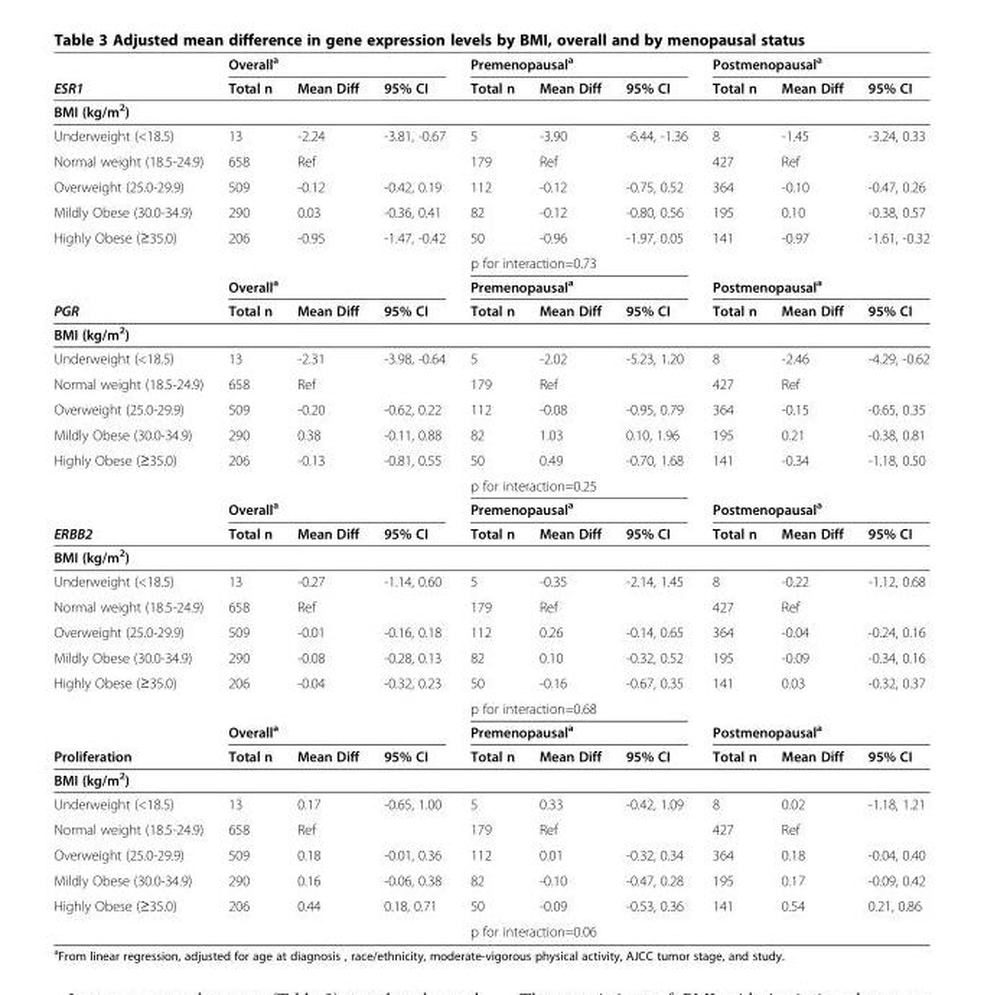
<table><thead><tr><td rowspan="2">ESR1</td><td colspan="3">Overall<sup>a</sup></td><td colspan="3">Premenopausal<sup>a</sup></td><td colspan="3">Postmenopausala</td></tr><tr><td>Total n</td><td>Mean Diff</td><td>95% CI</td><td>Total n</td><td>Mean Diff</td><td>95% CI</td><td>Total n</td><td>Mean Diff</td><td>95% CI</td></tr></thead><tbody><tr><td colspan="10">BMI (kg/m<sup>2</sup>)</td></tr><tr><td>Underweight (&lt;18.5)</td><td>13</td><td>-2.24</td><td>-3.81, -0.67</td><td>5</td><td>-3.90</td><td>-6.44, -1.36</td><td>8</td><td>-1.45</td><td>-3.24, 0.33</td></tr><tr><td>Normal weight (18.5-24.9)</td><td>658</td><td>Ref</td><td></td><td>179</td><td>Ref</td><td></td><td>427</td><td>Ref</td><td></td></tr><tr><td>Overweight (25.0-29.9)</td><td>509</td><td>-0.12</td><td>-0.42, 0.19</td><td>112</td><td>-0.12</td><td>-0.75, 0.52</td><td>364</td><td>-0.10</td><td>-0.47, 0.26</td></tr><tr><td>Mildly Obese (30.0-34.9)</td><td>290</td><td>0.03</td><td>-0.36, 0.41</td><td>82</td><td>-0.12</td><td>-0.80, 0.56</td><td>195</td><td>0.10</td><td>-0.38, 0.57</td></tr><tr><td rowspan="3">Highly Obese (≥35.0)</td><td>206</td><td>-0.95</td><td>-1.47, -0.42</td><td>50</td><td>-0.96</td><td>-1.97, 0.05</td><td>141</td><td>-0.97</td><td>-1.61, -0.32</td></tr><tr><td></td><td></td><td></td><td colspan="3">p for interaction=0.73</td><td colspan="3"></td></tr><tr><td colspan="3">Overall<sup>a</sup></td><td colspan="3">Premenopausal<sup>a</sup></td><td colspan="3">Postmenopausal<sup>a</sup></td></tr><tr><td>PGR</td><td>Total n</td><td>Mean Diff</td><td>95% CI</td><td>Total n</td><td>Mean Diff</td><td>95% CI</td><td>Total n</td><td>Mean Diff</td><td>95% CI</td></tr><tr><td colspan="10">BMI (kg/m<sup>2</sup>)</td></tr><tr><td>Underweight (&lt;18.5)</td><td>13</td><td>-2.31</td><td>-3.98, -0.64</td><td>5</td><td>-2.02</td><td>-5.23, 1.20</td><td>8</td><td>-2.46</td><td>-4.29, -0.62</td></tr><tr><td>Normal weight (18.5-24.9)</td><td>658</td><td>Ref</td><td></td><td>179</td><td>Ref</td><td></td><td>427</td><td>Ref</td><td></td></tr><tr><td>Overweight (25.0-29.9)</td><td>509</td><td>-0.20</td><td>-0.62, 0.22</td><td>112</td><td>-0.08</td><td>-0.95, 0.79</td><td>364</td><td>-0.15</td><td>-0.65, 0.35</td></tr><tr><td>Mildly Obese (30.0-34.9)</td><td>290</td><td>0.38</td><td>-0.11, 0.88</td><td>82</td><td>1.03</td><td>0.10, 1.96</td><td>195</td><td>0.21</td><td>-0.38, 0.81</td></tr><tr><td rowspan="3">Highly Obese (≥35.0)</td><td>206</td><td>-0.13</td><td>-0.81, 0.55</td><td>50</td><td>0.49</td><td>-0.70, 1.68</td><td>141</td><td>-0.34</td><td>-1.18, 0.50</td></tr><tr><td></td><td></td><td></td><td colspan="3">p for interaction=0.25</td><td colspan="3"></td></tr><tr><td colspan="3">Overall<sup>a</sup></td><td colspan="3">Premenopausal<sup>a</sup></td><td colspan="3">Postmenopausal<sup>a</sup></td></tr><tr><td>ERBB2</td><td>Total n</td><td>Mean Diff</td><td>95% CI</td><td>Total n</td><td>Mean Diff</td><td>95% CI</td><td>Total n</td><td>Mean Diff</td><td>95% CI</td></tr><tr><td colspan="10">BMI (kg/m<sup>2</sup>)</td></tr><tr><td>Underweight (&lt;18.5)</td><td>13</td><td>-0.27</td><td>-1.14, 0.60</td><td>5</td><td>-0.35</td><td>-2.14, 1.45</td><td>8</td><td>-0.22</td><td>-1.12, 0.68</td></tr><tr><td>Normal weight (18.5-24.9)</td><td>658</td><td>Ref</td><td></td><td>179</td><td>Ref</td><td></td><td>427</td><td>Ref</td><td></td></tr><tr><td>Overweight (25.0-29.9)</td><td>509</td><td>-0.01</td><td>-0.16, 0.18</td><td>112</td><td>0.26</td><td>-0.14, 0.65</td><td>364</td><td>-0.04</td><td>-0.24, 0.16</td></tr><tr><td>Mildly Obese (30.0-34.9)</td><td>290</td><td>-0.08</td><td>-0.28, 0.13</td><td>82</td><td>0.10</td><td>-0.32, 0.52</td><td>195</td><td>-0.09</td><td>-0.34, 0.16</td></tr><tr><td rowspan="3">Highly Obese (≥35.0)</td><td>206</td><td>-0.04</td><td>-0.32, 0.23</td><td>50</td><td>-0.16</td><td>-0.67, 0.35</td><td>141</td><td>0.03</td><td>-0.32, 0.37</td></tr><tr><td></td><td></td><td></td><td colspan="3">p for interaction=0.68</td><td colspan="3"></td></tr><tr><td colspan="3">Overall<sup>a</sup></td><td colspan="3">Premenopausal<sup>a</sup></td><td colspan="3">Postmenopausal<sup>a</sup></td></tr><tr><td>Proliferation</td><td>Total n</td><td>Mean Diff</td><td>95% CI</td><td>Total n</td><td>Mean Diff</td><td>95% CI</td><td>Total n</td><td>Mean Diff</td><td>95% CI</td></tr><tr><td colspan="10">BMI (kg/m<sup>2</sup>)</td></tr><tr><td>Underweight (&lt;18.5)</td><td>13</td><td>0.17</td><td>-0.65, 1.00</td><td>5</td><td>0.33</td><td>-0.42, 1.09</td><td>8</td><td>0.02</td><td>-1.18, 1.21</td></tr><tr><td>Normal weight (18.5-24.9)</td><td>658</td><td>Ref</td><td></td><td>179</td><td>Ref</td><td></td><td>427</td><td>Ref</td><td></td></tr><tr><td>Overweight (25.0-29.9)</td><td>509</td><td>0.18</td><td>-0.01, 0.36</td><td>112</td><td>0.01</td><td>-0.32, 0.34</td><td>364</td><td>0.18</td><td>-0.04, 0.40</td></tr><tr><td>Mildly Obese (30.0-34.9)</td><td>290</td><td>0.16</td><td>-0.06, 0.38</td><td>82</td><td>-0.10</td><td>-0.47, 0.28</td><td>195</td><td>0.17</td><td>-0.09, 0.42</td></tr><tr><td rowspan="2">Highly Obese (≥35.0)</td><td>206</td><td>0.44</td><td>0.18, 0.71</td><td>50</td><td>-0.09</td><td>-0.53, 0.36</td><td>141</td><td>0.54</td><td>0.21, 0.86</td></tr><tr><td></td><td></td><td></td><td colspan="3">p for interaction=0.06</td><td colspan="3"></td></tr></tbody></table>